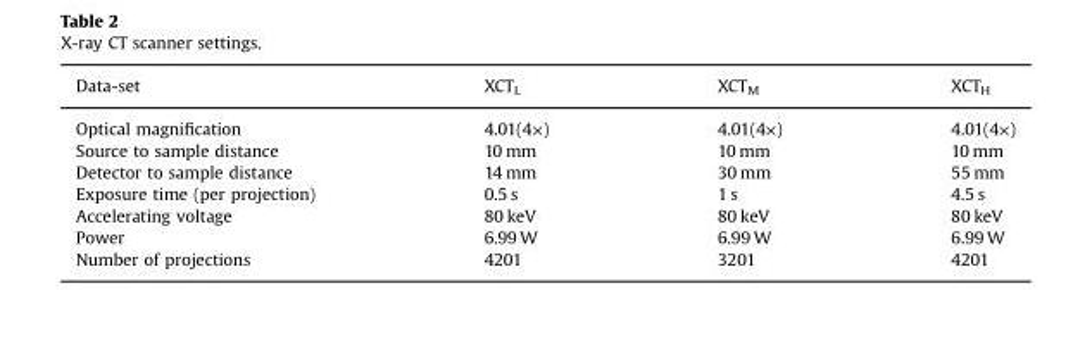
<table><thead><tr><td>Data-set</td><td>XCT<sub>L</sub></td><td>XCT<sub>M</sub></td><td>XCT<sub>H</sub></td></tr></thead><tbody><tr><td>Optical magnification</td><td>4.01(4×)</td><td>4.01(4×)</td><td>4.01(4×)</td></tr><tr><td>Source to sample distance</td><td>10 mm</td><td>10 mm</td><td>10 mm</td></tr><tr><td>Detector to sample distance</td><td>14 mm</td><td>30 mm</td><td>55 mm</td></tr><tr><td>Exposure time (per projection)</td><td>0.5 s</td><td>1 s</td><td>4.5 s</td></tr><tr><td>Accelerating voltage</td><td>80 keV</td><td>80 keV</td><td>80 keV</td></tr><tr><td>Power</td><td>6.99 W</td><td>6.99 W</td><td>6.99 W</td></tr><tr><td>Number of projections</td><td>4201</td><td>3201</td><td>4201</td></tr></tbody></table>